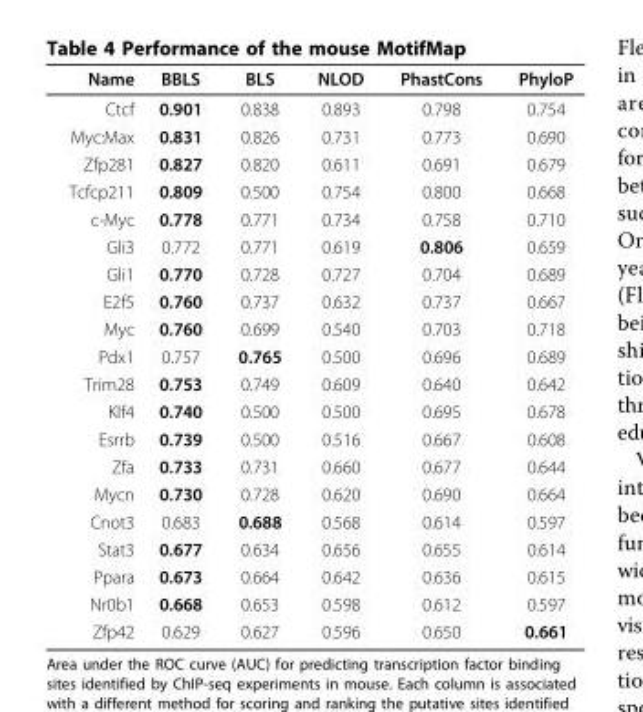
<table><thead><tr><td>Name</td><td>BBLS</td><td>BLS</td><td>NLOD</td><td>PhastCons</td><td>PhyloP</td></tr></thead><tbody><tr><td>Ctcf</td><td>0.901</td><td>0.838</td><td>0.893</td><td>0.798</td><td>0.754</td></tr><tr><td>Myc:Max</td><td>0.831</td><td>0.826</td><td>0.731</td><td>0.773</td><td>0.690</td></tr><tr><td>Zfp281</td><td>0.827</td><td>0.820</td><td>0.611</td><td>0.691</td><td>0.679</td></tr><tr><td>Tcfcp211</td><td>0.809</td><td>0.500</td><td>0.754</td><td>0.800</td><td>0.668</td></tr><tr><td>c-Myc</td><td>0.778</td><td>0.771</td><td>0.734</td><td>0.758</td><td>0.710</td></tr><tr><td>Gli3</td><td>0.772</td><td>0.771</td><td>0.619</td><td>0.806</td><td>0.659</td></tr><tr><td>Gli1</td><td>0.770</td><td>0.728</td><td>0.727</td><td>0.704</td><td>0.689</td></tr><tr><td>E2f5</td><td>0.760</td><td>0.737</td><td>0.632</td><td>0.737</td><td>0.667</td></tr><tr><td>Myc</td><td>0.760</td><td>0.699</td><td>0.540</td><td>0.703</td><td>0.718</td></tr><tr><td>Pdx1</td><td>0.757</td><td>0.765</td><td>0.500</td><td>0.696</td><td>0.689</td></tr><tr><td>Trim28</td><td>0.753</td><td>0.749</td><td>0.609</td><td>0.640</td><td>0.642</td></tr><tr><td>Klf4</td><td>0.740</td><td>0.500</td><td>0.500</td><td>0.695</td><td>0.678</td></tr><tr><td>Esrrb</td><td>0.739</td><td>0.500</td><td>0.516</td><td>0.667</td><td>0.608</td></tr><tr><td>Zfa</td><td>0.733</td><td>0.731</td><td>0.660</td><td>0.677</td><td>0.644</td></tr><tr><td>Mycn</td><td>0.730</td><td>0.728</td><td>0.620</td><td>0.690</td><td>0.664</td></tr><tr><td>Cnot3</td><td>0.683</td><td>0.688</td><td>0.568</td><td>0.614</td><td>0.597</td></tr><tr><td>Stat3</td><td>0.677</td><td>0.634</td><td>0.656</td><td>0.655</td><td>0.614</td></tr><tr><td>Ppara</td><td>0.673</td><td>0.664</td><td>0.642</td><td>0.636</td><td>0.615</td></tr><tr><td>Nr0b1</td><td>0.668</td><td>0.653</td><td>0.598</td><td>0.612</td><td>0.597</td></tr><tr><td>Zfp42</td><td>0.629</td><td>0.627</td><td>0.596</td><td>0.650</td><td>0.661</td></tr></tbody></table>